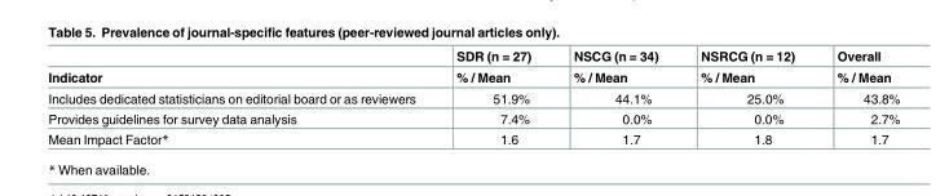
<table><thead><tr><td rowspan="2">Indicator</td><td rowspan="2">SDR (n = 27) % / Mean</td><td rowspan="2">NSCG (n = 34) % / Mean</td><td rowspan="2">NSRCG (n = 12) % / Mean</td><td rowspan="2">Overall % / Mean</td></tr><tr></tr></thead><tbody><tr><td>Includes dedicated statisticians on editorial board or as reviewers</td><td>51.9%</td><td>44.1%</td><td>25.0%</td><td>43.8%</td></tr><tr><td>Provides guidelines for survey data analysis</td><td>7.4%</td><td>0.0%</td><td>0.0%</td><td>2.7%</td></tr><tr><td>Mean Impact Factor*</td><td>1.6</td><td>1.7</td><td>1.8</td><td>1.7</td></tr></tbody></table>